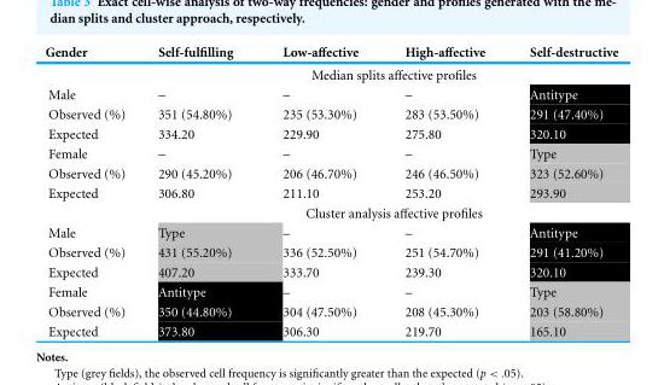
<table><thead><tr><td>Gender</td><td>Self-fulfilling</td><td>Low-affective</td><td>High-affective</td><td>Self-destructive</td></tr></thead><tbody><tr><td></td><td colspan="4">Median splits affective profiles</td></tr><tr><td>Male</td><td>–</td><td>–</td><td>–</td><td>Antitype</td></tr><tr><td>Observed (%)</td><td>351 (54.80%)</td><td>235 (53.30%)</td><td>283 (53.50%)</td><td>291 (47.40%)</td></tr><tr><td>Expected</td><td>334.20</td><td>229.90</td><td>275.80</td><td>320.10</td></tr><tr><td>Female</td><td>–</td><td>–</td><td>–</td><td>Type</td></tr><tr><td>Observed (%)</td><td>290 (45.20%)</td><td>206 (46.70%)</td><td>246 (46.50%)</td><td>323 (52.60%)</td></tr><tr><td rowspan="2">Expected</td><td>306.80</td><td>211.10</td><td>253.20</td><td>293.90</td></tr><tr><td colspan="4">Cluster analysis affective profiles</td></tr><tr><td>Male</td><td>Type</td><td>–</td><td>–</td><td>Antitype</td></tr><tr><td>Observed (%)</td><td>431 (55.20%)</td><td>336 (52.50%)</td><td>251 (54.70%)</td><td>291 (41.20%)</td></tr><tr><td>Expected</td><td>407.20</td><td>333.70</td><td>239.30</td><td>320.10</td></tr><tr><td>Female</td><td>Antitype</td><td>–</td><td>–</td><td>Type</td></tr><tr><td>Observed (%)</td><td>350 (44.80%)</td><td>304 (47.50%)</td><td>208 (45.30%)</td><td>203 (58.80%)</td></tr><tr><td>Expected</td><td>373.80</td><td>306.30</td><td>219.70</td><td>165.10</td></tr></tbody></table>